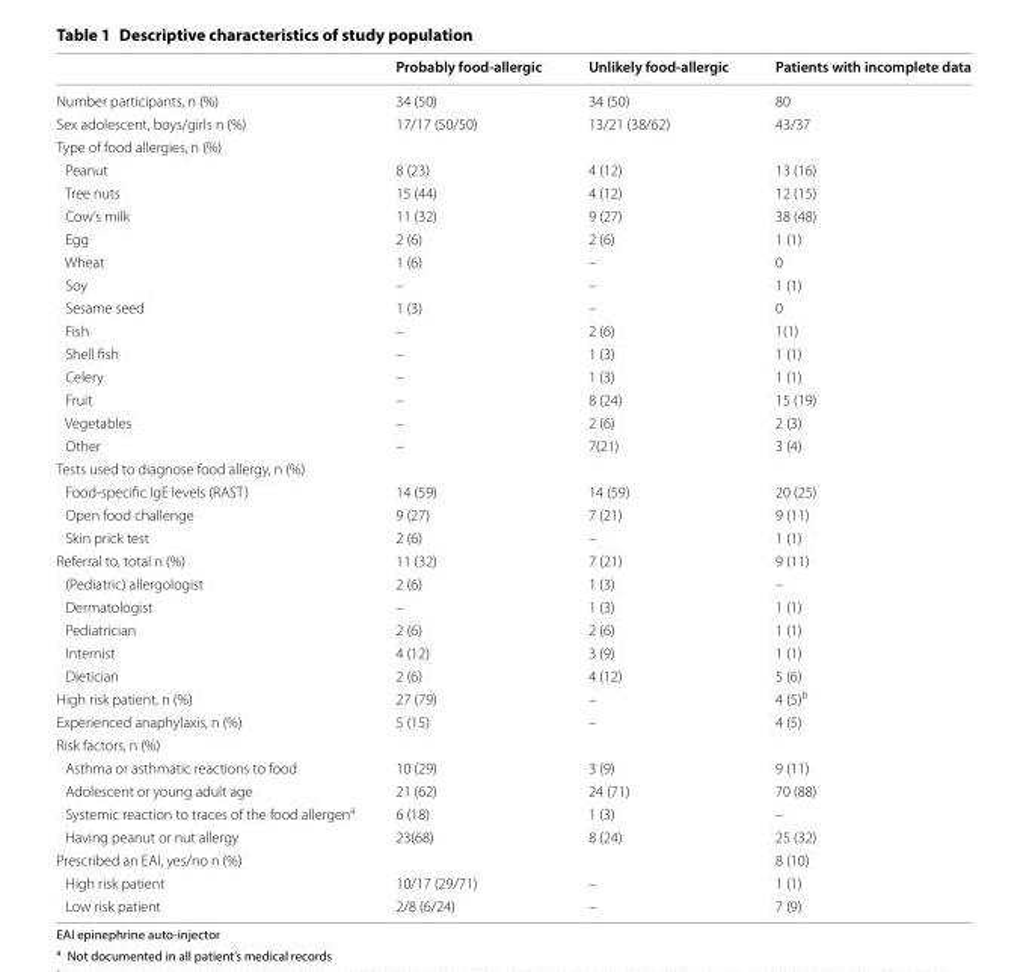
<table><thead><tr><td></td><td>Probably food-allergic</td><td>Unlikely food-allergic</td><td>Patients with incomplete data</td></tr></thead><tbody><tr><td>Number participants, n (%)</td><td>34 (50)</td><td>34 (50)</td><td>80</td></tr><tr><td>Sex adolescent, boys/girls n (%)</td><td>17/17 (50/50)</td><td>13/21 (38/62)</td><td>43/37</td></tr><tr><td colspan="4">Type of food allergies, n (%)</td></tr><tr><td>Peanut</td><td>8 (23)</td><td>4 (12)</td><td>13 (16)</td></tr><tr><td>Tree nuts</td><td>15 (44)</td><td>4 (12)</td><td>12 (15)</td></tr><tr><td>Cow’s milk</td><td>11 (32)</td><td>9 (27)</td><td>38 (48)</td></tr><tr><td>Egg</td><td>2 (6)</td><td>2 (6)</td><td>1 (1)</td></tr><tr><td>Wheat</td><td>1 (6)</td><td>–</td><td>0</td></tr><tr><td>Soy</td><td>–</td><td>–</td><td>1 (1)</td></tr><tr><td>Sesame seed</td><td>1 (3)</td><td>–</td><td>0</td></tr><tr><td>Fish</td><td>–</td><td>2 (6)</td><td>1(1)</td></tr><tr><td>Shell fish</td><td>–</td><td>1 (3)</td><td>1 (1)</td></tr><tr><td>Celery</td><td>–</td><td>1 (3)</td><td>1 (1)</td></tr><tr><td>Fruit</td><td>–</td><td>8 (24)</td><td>15 (19)</td></tr><tr><td>Vegetables</td><td>–</td><td>2 (6)</td><td>2 (3)</td></tr><tr><td>Other</td><td>–</td><td>7(21)</td><td>3 (4)</td></tr><tr><td colspan="4">Tests used to diagnose food allergy, n (%)</td></tr><tr><td>Food‑specific IgE levels (RAST)</td><td>14 (59)</td><td>14 (59)</td><td>20 (25)</td></tr><tr><td>Open food challenge</td><td>9 (27)</td><td>7 (21)</td><td>9 (11)</td></tr><tr><td>Skin prick test</td><td>2 (6)</td><td>–</td><td>1 (1)</td></tr><tr><td>Referral to, total n (%)</td><td>11 (32)</td><td>7 (21)</td><td>9 (11)</td></tr><tr><td>(Pediatric) allergologist</td><td>2 (6)</td><td>1 (3)</td><td>–</td></tr><tr><td>Dermatologist</td><td>–</td><td>1 (3)</td><td>1 (1)</td></tr><tr><td>Pediatrician</td><td>2 (6)</td><td>2 (6)</td><td>1 (1)</td></tr><tr><td>Internist</td><td>4 (12)</td><td>3 (9)</td><td>1 (1)</td></tr><tr><td>Dietician</td><td>2 (6)</td><td>4 (12)</td><td>5 (6)</td></tr><tr><td>High risk patient, n (%)</td><td>27 (79)</td><td>–</td><td>4 (5)<sup>b</sup></td></tr><tr><td>Experienced anaphylaxis, n (%)</td><td>5 (15)</td><td>–</td><td>4 (5)</td></tr><tr><td colspan="4">Risk factors, n (%)</td></tr><tr><td>Asthma or asthmatic reactions to food</td><td>10 (29)</td><td>3 (9)</td><td>9 (11)</td></tr><tr><td>Adolescent or young adult age</td><td>21 (62)</td><td>24 (71)</td><td>70 (88)</td></tr><tr><td>Systemic reaction to traces of the food allergen<sup>a</sup></td><td>6 (18)</td><td>1 (3)</td><td>–</td></tr><tr><td>Having peanut or nut allergy</td><td>23(68)</td><td>8 (24)</td><td>25 (32)</td></tr><tr><td>Prescribed an EAI, yes/no n (%)</td><td></td><td></td><td>8 (10)</td></tr><tr><td>High risk patient</td><td>10/17 (29/71)</td><td>–</td><td>1 (1)</td></tr><tr><td>Low risk patient</td><td>2/8 (6/24)</td><td>–</td><td>7 (9)</td></tr></tbody></table>